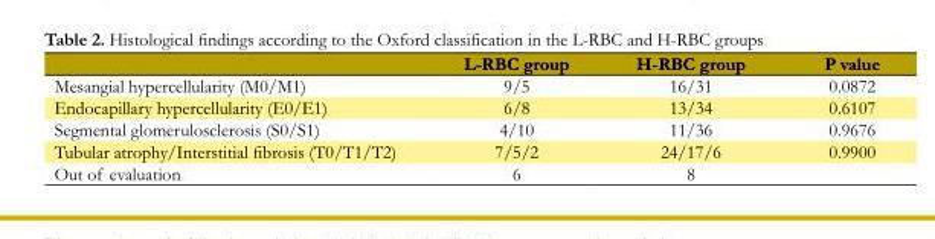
<table><thead><tr><td></td><td>L-RBC group</td><td>H-RBC group</td><td>P value</td></tr></thead><tbody><tr><td>Mesangial hypercellularity (M0/M1)</td><td>9/5</td><td>16/31</td><td>0.0872</td></tr><tr><td>Endocapillary hypercellularity (E0/E1)</td><td>6/8</td><td>13/34</td><td>0.6107</td></tr><tr><td>Segmental glomerulosclerosis (S0/S1)</td><td>4/10</td><td>11/36</td><td>0.9676</td></tr><tr><td>Tubular atrophy/Interstitial fibrosis (T0/T1/T2)</td><td>7/5/2</td><td>24/17/6</td><td>0.9900</td></tr><tr><td>Out of evaluation</td><td>6</td><td>8</td><td></td></tr></tbody></table>